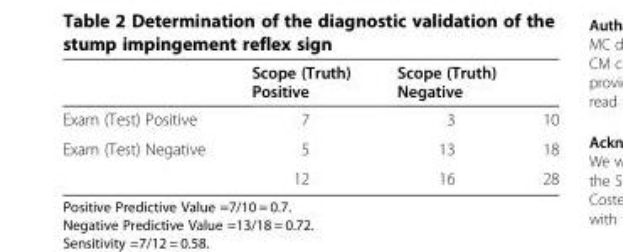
<table><thead><tr><td></td><td>Scope (Truth) Positive</td><td>Scope (Truth) Negative</td><td></td></tr></thead><tbody><tr><td>Exam (Test) Positive</td><td>7</td><td>3</td><td>10</td></tr><tr><td rowspan="2">Exam (Test) Negative</td><td>5</td><td>13</td><td>18</td></tr><tr><td>12</td><td>16</td><td>28</td></tr></tbody></table>